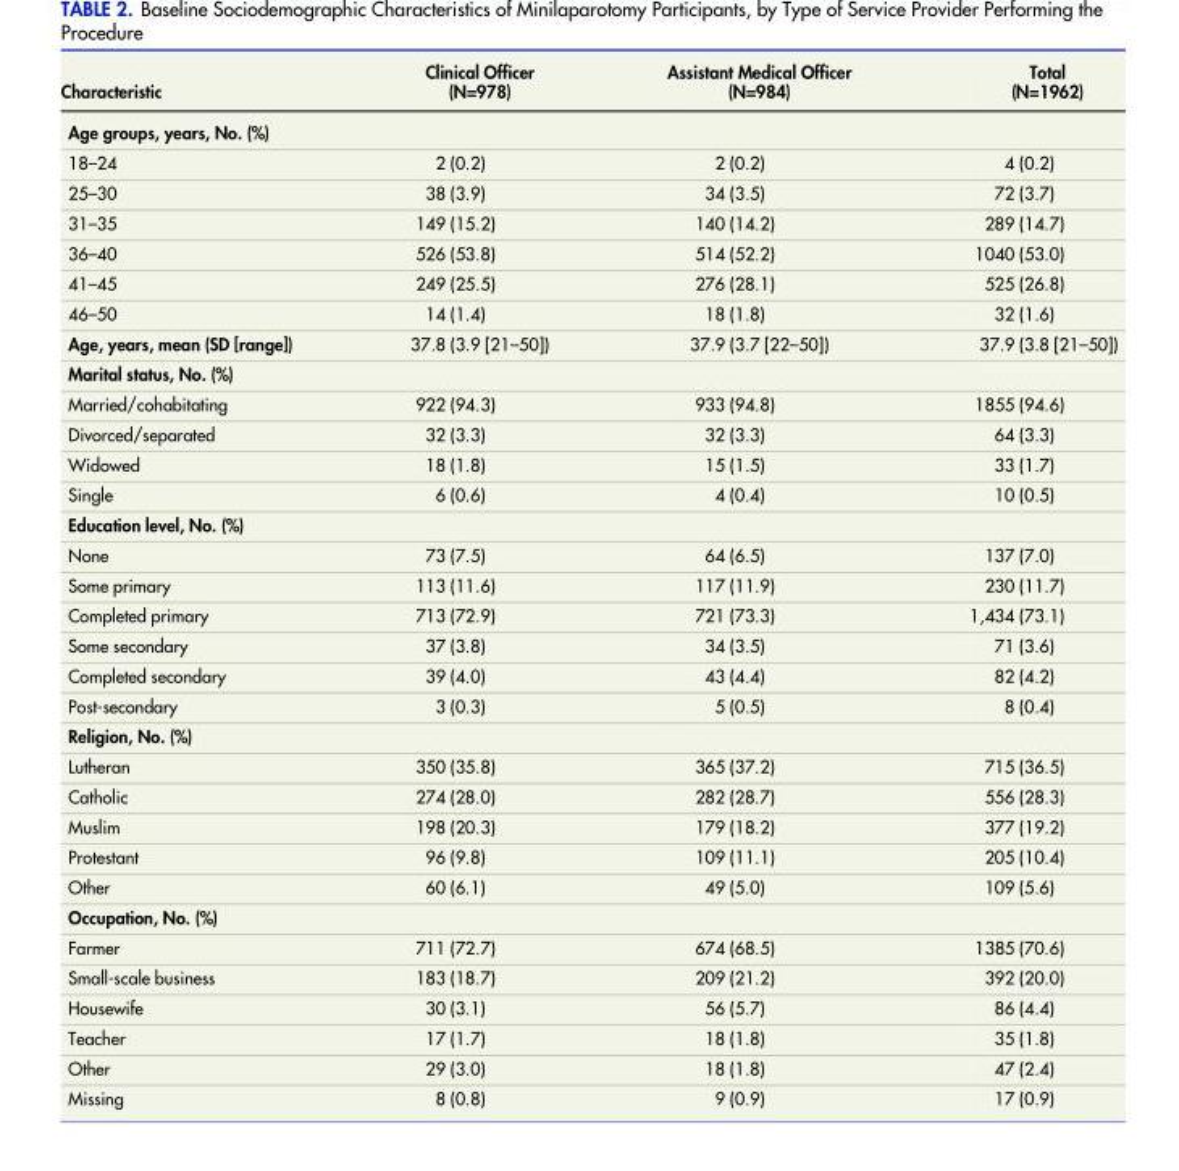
<table><thead><tr><td>Characteristic</td><td>Clinical Officer (N=978)</td><td>Assistant Medical Officer (N=984)</td><td>Total (N=1962)</td></tr></thead><tbody><tr><td colspan="4">Age groups, years, No. (%)</td></tr><tr><td>18–24</td><td>2 (0.2)</td><td>2 (0.2)</td><td>4 (0.2)</td></tr><tr><td>25–30</td><td>38 (3.9)</td><td>34 (3.5)</td><td>72 (3.7)</td></tr><tr><td>31–35</td><td>149 (15.2)</td><td>140 (14.2)</td><td>289 (14.7)</td></tr><tr><td>36–40</td><td>526 (53.8)</td><td>514 (52.2)</td><td>1040 (53.0)</td></tr><tr><td>41–45</td><td>249 (25.5)</td><td>276 (28.1)</td><td>525 (26.8)</td></tr><tr><td>46–50</td><td>14 (1.4)</td><td>18 (1.8)</td><td>32 (1.6)</td></tr><tr><td>Age, years, mean (SD [range])</td><td>37.8 (3.9 [21–50])</td><td>37.9 (3.7 [22–50])</td><td>37.9 (3.8 [21–50])</td></tr><tr><td colspan="4">Marital status, No. (%)</td></tr><tr><td>Married/cohabitating</td><td>922 (94.3)</td><td>933 (94.8)</td><td>1855 (94.6)</td></tr><tr><td>Divorced/separated</td><td>32 (3.3)</td><td>32 (3.3)</td><td>64 (3.3)</td></tr><tr><td>Widowed</td><td>18 (1.8)</td><td>15 (1.5)</td><td>33 (1.7)</td></tr><tr><td>Single</td><td>6 (0.6)</td><td>4 (0.4)</td><td>10 (0.5)</td></tr><tr><td colspan="4">Education level, No. (%)</td></tr><tr><td>None</td><td>73 (7.5)</td><td>64 (6.5)</td><td>137 (7.0)</td></tr><tr><td>Some primary</td><td>113 (11.6)</td><td>117 (11.9)</td><td>230 (11.7)</td></tr><tr><td>Completed primary</td><td>713 (72.9)</td><td>721 (73.3)</td><td>1,434 (73.1)</td></tr><tr><td>Some secondary</td><td>37 (3.8)</td><td>34 (3.5)</td><td>71 (3.6)</td></tr><tr><td>Completed secondary</td><td>39 (4.0)</td><td>43 (4.4)</td><td>82 (4.2)</td></tr><tr><td>Post-secondary</td><td>3 (0.3)</td><td>5 (0.5)</td><td>8 (0.4)</td></tr><tr><td colspan="4">Religion, No. (%)</td></tr><tr><td>Lutheran</td><td>350 (35.8)</td><td>365 (37.2)</td><td>715 (36.5)</td></tr><tr><td>Catholic</td><td>274 (28.0)</td><td>282 (28.7)</td><td>556 (28.3)</td></tr><tr><td>Muslim</td><td>198 (20.3)</td><td>179 (18.2)</td><td>377 (19.2)</td></tr><tr><td>Protestant</td><td>96 (9.8)</td><td>109 (11.1)</td><td>205 (10.4)</td></tr><tr><td>Other</td><td>60 (6.1)</td><td>49 (5.0)</td><td>109 (5.6)</td></tr><tr><td colspan="4">Occupation, No. (%)</td></tr><tr><td>Farmer</td><td>711 (72.7)</td><td>674 (68.5)</td><td>1385 (70.6)</td></tr><tr><td>Small-scale business</td><td>183 (18.7)</td><td>209 (21.2)</td><td>392 (20.0)</td></tr><tr><td>Housewife</td><td>30 (3.1)</td><td>56 (5.7)</td><td>86 (4.4)</td></tr><tr><td>Teacher</td><td>17 (1.7)</td><td>18 (1.8)</td><td>35 (1.8)</td></tr><tr><td>Other</td><td>29 (3.0)</td><td>18 (1.8)</td><td>47 (2.4)</td></tr><tr><td>Missing</td><td>8 (0.8)</td><td>9 (0.9)</td><td>17 (0.9)</td></tr></tbody></table>